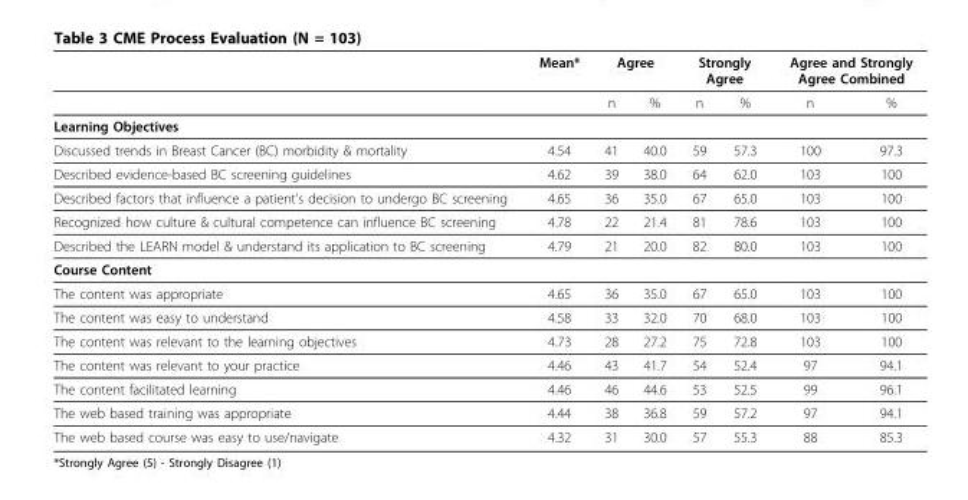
<table><thead><tr><td rowspan="2"></td><td rowspan="2">Mean*</td><td colspan="2">Agree</td><td colspan="2">Strongly Agree</td><td colspan="2">Agree and Strongly Agree Combined</td></tr><tr><td>n</td><td>%</td><td>n</td><td>%</td><td>n</td><td>%</td></tr></thead><tbody><tr><td colspan="8">Learning Objectives</td></tr><tr><td>Discussed trends in Breast Cancer (BC) morbidity &amp; mortality</td><td>4.54</td><td>41</td><td>40.0</td><td>59</td><td>57.3</td><td>100</td><td>97.3</td></tr><tr><td>Described evidence-based BC screening guidelines</td><td>4.62</td><td>39</td><td>38.0</td><td>64</td><td>62.0</td><td>103</td><td>100</td></tr><tr><td>Described factors that influence a patient’s decision to undergo BC screening</td><td>4.65</td><td>36</td><td>35.0</td><td>67</td><td>65.0</td><td>103</td><td>100</td></tr><tr><td>Recognized how culture &amp; cultural competence can influence BC screening</td><td>4.78</td><td>22</td><td>21.4</td><td>81</td><td>78.6</td><td>103</td><td>100</td></tr><tr><td>Described the LEARN model &amp; understand its application to BC screening</td><td>4.79</td><td>21</td><td>20.0</td><td>82</td><td>80.0</td><td>103</td><td>100</td></tr><tr><td colspan="8">Course Content</td></tr><tr><td>The content was appropriate</td><td>4.65</td><td>36</td><td>35.0</td><td>67</td><td>65.0</td><td>103</td><td>100</td></tr><tr><td>The content was easy to understand</td><td>4.58</td><td>33</td><td>32.0</td><td>70</td><td>68.0</td><td>103</td><td>100</td></tr><tr><td>The content was relevant to the learning objectives</td><td>4.73</td><td>28</td><td>27.2</td><td>75</td><td>72.8</td><td>103</td><td>100</td></tr><tr><td>The content was relevant to your practice</td><td>4.46</td><td>43</td><td>41.7</td><td>54</td><td>52.4</td><td>97</td><td>94.1</td></tr><tr><td>The content facilitated learning</td><td>4.46</td><td>46</td><td>44.6</td><td>53</td><td>52.5</td><td>99</td><td>96.1</td></tr><tr><td>The web based training was appropriate</td><td>4.44</td><td>38</td><td>36.8</td><td>59</td><td>57.2</td><td>97</td><td>94.1</td></tr><tr><td>The web based course was easy to use/navigate</td><td>4.32</td><td>31</td><td>30.0</td><td>57</td><td>55.3</td><td>88</td><td>85.3</td></tr></tbody></table>